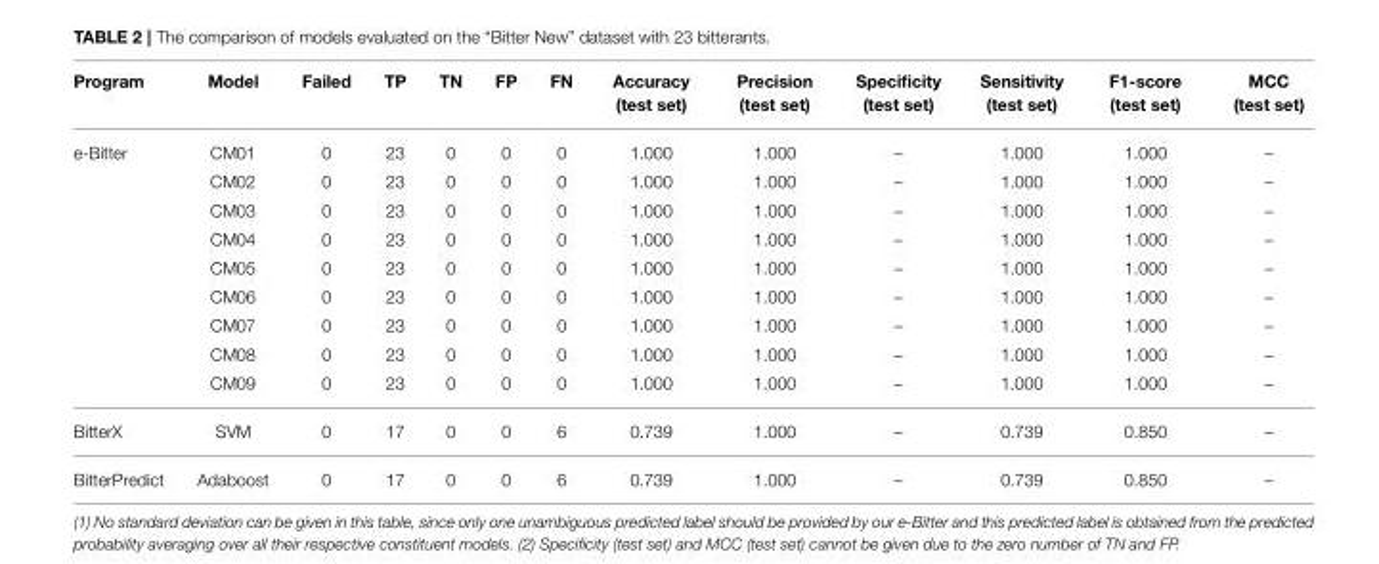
<table><thead><tr><td>Program</td><td>Model</td><td>Failed</td><td>TP</td><td>TN</td><td>FP</td><td>FN</td><td>Accuracy (test set)</td><td>Precision (test set)</td><td>Specificity (test set)</td><td>Sensitivity (test set)</td><td>F1-score (test set)</td><td>MCC (test set)</td></tr></thead><tbody><tr><td rowspan="9">e-Bitter</td><td>CM01</td><td>0</td><td>23</td><td>0</td><td>0</td><td>0</td><td>1.000</td><td>1.000</td><td>–</td><td>1.000</td><td>1.000</td><td>–</td></tr><tr><td>CM02</td><td>0</td><td>23</td><td>0</td><td>0</td><td>0</td><td>1.000</td><td>1.000</td><td>–</td><td>1.000</td><td>1.000</td><td>–</td></tr><tr><td>CM03</td><td>0</td><td>23</td><td>0</td><td>0</td><td>0</td><td>1.000</td><td>1.000</td><td>–</td><td>1.000</td><td>1.000</td><td>–</td></tr><tr><td>CM04</td><td>0</td><td>23</td><td>0</td><td>0</td><td>0</td><td>1.000</td><td>1.000</td><td>–</td><td>1.000</td><td>1.000</td><td>–</td></tr><tr><td>CM05</td><td>0</td><td>23</td><td>0</td><td>0</td><td>0</td><td>1.000</td><td>1.000</td><td>–</td><td>1.000</td><td>1.000</td><td>–</td></tr><tr><td>CM06</td><td>0</td><td>23</td><td>0</td><td>0</td><td>0</td><td>1.000</td><td>1.000</td><td>–</td><td>1.000</td><td>1.000</td><td>–</td></tr><tr><td>CM07</td><td>0</td><td>23</td><td>0</td><td>0</td><td>0</td><td>1.000</td><td>1.000</td><td>–</td><td>1.000</td><td>1.000</td><td>–</td></tr><tr><td>CM08</td><td>0</td><td>23</td><td>0</td><td>0</td><td>0</td><td>1.000</td><td>1.000</td><td>–</td><td>1.000</td><td>1.000</td><td>–</td></tr><tr><td>CM09</td><td>0</td><td>23</td><td>0</td><td>0</td><td>0</td><td>1.000</td><td>1.000</td><td>–</td><td>1.000</td><td>1.000</td><td>–</td></tr><tr><td>BitterX</td><td>SVM</td><td>0</td><td>17</td><td>0</td><td>0</td><td>6</td><td>0.739</td><td>1.000</td><td>–</td><td>0.739</td><td>0.850</td><td>–</td></tr><tr><td>BitterPredict</td><td>Adaboost</td><td>0</td><td>17</td><td>0</td><td>0</td><td>6</td><td>0.739</td><td>1.000</td><td>–</td><td>0.739</td><td>0.850</td><td>–</td></tr></tbody></table>